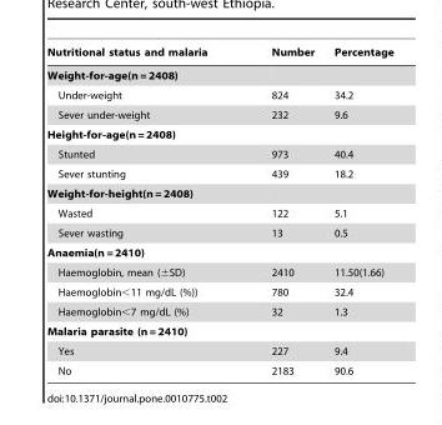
<table><thead><tr><td>Nutritional status and malaria</td><td>Number</td><td>Percentage</td></tr></thead><tbody><tr><td colspan="3">Weight-for-age(n = 2408)</td></tr><tr><td>Under-weight</td><td>824</td><td>34.2</td></tr><tr><td>Sever under-weight</td><td>232</td><td>9.6</td></tr><tr><td colspan="3">Height-for-age(n = 2408)</td></tr><tr><td>Stunted</td><td>973</td><td>40.4</td></tr><tr><td>Sever stunting</td><td>439</td><td>18.2</td></tr><tr><td colspan="3">Weight-for-height(n = 2408)</td></tr><tr><td>Wasted</td><td>122</td><td>5.1</td></tr><tr><td>Sever wasting</td><td>13</td><td>0.5</td></tr><tr><td colspan="3">Anaemia(n = 2410)</td></tr><tr><td>Haemoglobin, mean (±SD)</td><td>2410</td><td>11.50(1.66)</td></tr><tr><td>Haemoglobin&lt;11 mg/dL (%))</td><td>780</td><td>32.4</td></tr><tr><td>Haemoglobin&lt;7 mg/dL (%)</td><td>32</td><td>1.3</td></tr><tr><td colspan="3">Malaria parasite (n = 2410)</td></tr><tr><td>Yes</td><td>227</td><td>9.4</td></tr><tr><td>No</td><td>2183</td><td>90.6</td></tr></tbody></table>